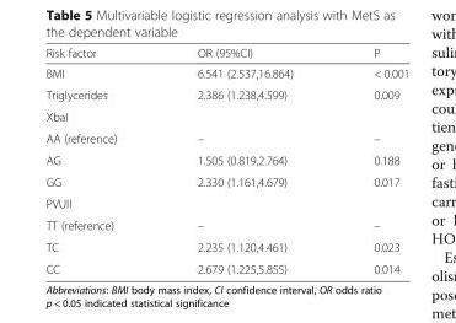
<table><thead><tr><td>Risk factor</td><td>OR (95%CI)</td><td>P</td></tr></thead><tbody><tr><td>BMI</td><td>6.541 (2.537,16.864)</td><td>&lt; 0.001</td></tr><tr><td>Triglycerides</td><td>2.386 (1.238,4.599)</td><td>0.009</td></tr><tr><td colspan="3">XbaI</td></tr><tr><td>AA (reference)</td><td>–</td><td>–</td></tr><tr><td>AG</td><td>1.505 (0.819,2.764)</td><td>0.188</td></tr><tr><td>GG</td><td>2.330 (1.161,4.679)</td><td>0.017</td></tr><tr><td colspan="3">PVUII</td></tr><tr><td>TT (reference)</td><td>–</td><td>–</td></tr><tr><td>TC</td><td>2.235 (1.120,4.461)</td><td>0.023</td></tr><tr><td>CC</td><td>2.679 (1.225,5.855)</td><td>0.014</td></tr></tbody></table>